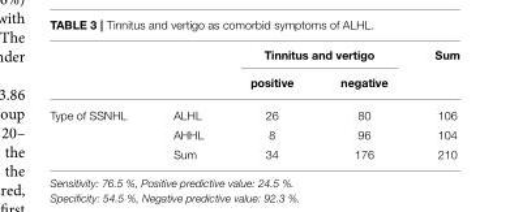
<table><thead><tr><td rowspan="2"></td><td rowspan="2"></td><td colspan="2">Tinnitus and vertigo</td><td rowspan="2">Sum</td></tr><tr><td>positive</td><td>negative</td></tr></thead><tbody><tr><td rowspan="3">Type of SSNHL</td><td>ALHL</td><td>26</td><td>80</td><td>106</td></tr><tr><td>AHHL</td><td>8</td><td>96</td><td>104</td></tr><tr><td>Sum</td><td>34</td><td>176</td><td>210</td></tr></tbody></table>